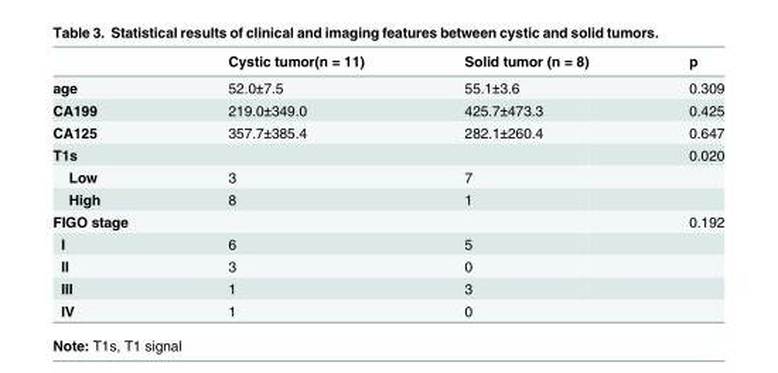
<table><thead><tr><td></td><td>Cystic tumor(n = 11)</td><td>Solid tumor (n = 8)</td><td>p</td></tr></thead><tbody><tr><td>age</td><td>52.0±7.5</td><td>55.1±3.6</td><td>0.309</td></tr><tr><td>CA199</td><td>219.0±349.0</td><td>425.7±473.3</td><td>0.425</td></tr><tr><td>CA125</td><td>357.7±385.4</td><td>282.1±260.4</td><td>0.647</td></tr><tr><td>T1s</td><td></td><td></td><td>0.020</td></tr><tr><td>Low</td><td>3</td><td>7</td><td></td></tr><tr><td>High</td><td>8</td><td>1</td><td></td></tr><tr><td>FIGO stage</td><td></td><td></td><td>0.192</td></tr><tr><td>I</td><td>6</td><td>5</td><td></td></tr><tr><td>II</td><td>3</td><td>0</td><td></td></tr><tr><td>III</td><td>1</td><td>3</td><td></td></tr><tr><td>IV</td><td>1</td><td>0</td><td></td></tr></tbody></table>